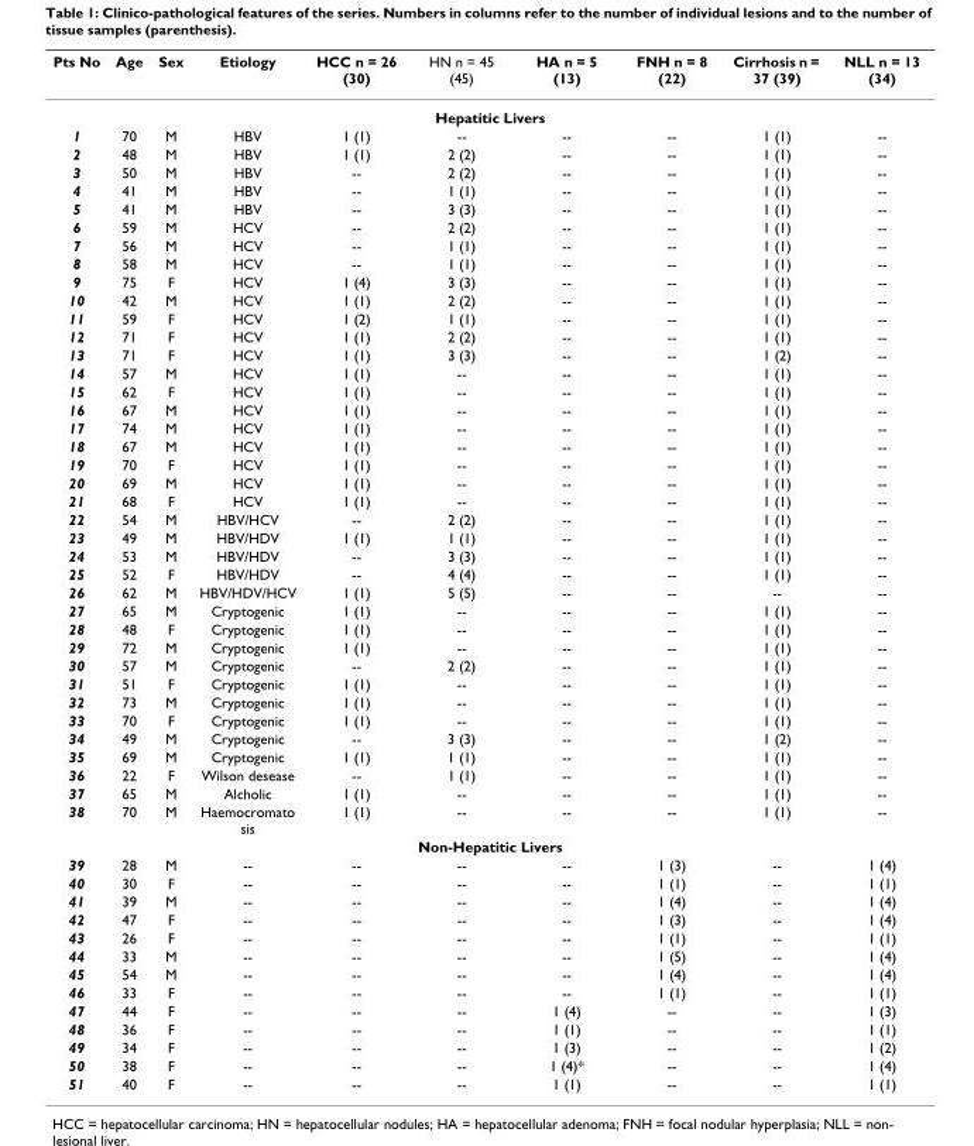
<table><thead><tr><td>Pts No</td><td>Age</td><td>Sex</td><td>Etiology</td><td>HCC n = 26 (30)</td><td>HN n = 45 (45)</td><td>HA n = 5 (13)</td><td>FNH n = 8 (22)</td><td>Cirrhosis n = 37 (39)</td><td>NLL n = 13 (34)</td></tr></thead><tbody><tr><td colspan="10">Hepatitic Livers</td></tr><tr><td>1</td><td>70</td><td>M</td><td>HBV</td><td>1 (1)</td><td>--</td><td>--</td><td>--</td><td>1 (1)</td><td>--</td></tr><tr><td>2</td><td>48</td><td>M</td><td>HBV</td><td>1 (1)</td><td>2 (2)</td><td>--</td><td>--</td><td>1 (1)</td><td>--</td></tr><tr><td>3</td><td>50</td><td>M</td><td>HBV</td><td>--</td><td>2 (2)</td><td>--</td><td>--</td><td>1 (1)</td><td>--</td></tr><tr><td>4</td><td>41</td><td>M</td><td>HBV</td><td>--</td><td>1 (1)</td><td>--</td><td>--</td><td>1 (1)</td><td>--</td></tr><tr><td>5</td><td>41</td><td>M</td><td>HBV</td><td>--</td><td>3 (3)</td><td>--</td><td>--</td><td>1 (1)</td><td>--</td></tr><tr><td>6</td><td>59</td><td>M</td><td>HCV</td><td>--</td><td>2 (2)</td><td>--</td><td>--</td><td>1 (1)</td><td>--</td></tr><tr><td>7</td><td>56</td><td>M</td><td>HCV</td><td>--</td><td>1 (1)</td><td>--</td><td>--</td><td>1 (1)</td><td>--</td></tr><tr><td>8</td><td>58</td><td>M</td><td>HCV</td><td>--</td><td>1 (1)</td><td>--</td><td>--</td><td>1 (1)</td><td>--</td></tr><tr><td>9</td><td>75</td><td>F</td><td>HCV</td><td>1 (4)</td><td>3 (3)</td><td>--</td><td>--</td><td>1 (1)</td><td>--</td></tr><tr><td>10</td><td>42</td><td>M</td><td>HCV</td><td>1 (1)</td><td>2 (2)</td><td>--</td><td>--</td><td>1 (1)</td><td>--</td></tr><tr><td>11</td><td>59</td><td>F</td><td>HCV</td><td>1 (2)</td><td>1 (1)</td><td>--</td><td>--</td><td>1 (1)</td><td>--</td></tr><tr><td>12</td><td>71</td><td>F</td><td>HCV</td><td>1 (1)</td><td>2 (2)</td><td>--</td><td>--</td><td>1 (1)</td><td>--</td></tr><tr><td>13</td><td>71</td><td>F</td><td>HCV</td><td>1 (1)</td><td>3 (3)</td><td>--</td><td>--</td><td>1 (2)</td><td>--</td></tr><tr><td>14</td><td>57</td><td>M</td><td>HCV</td><td>1 (1)</td><td>--</td><td>--</td><td>--</td><td>1 (1)</td><td>--</td></tr><tr><td>15</td><td>62</td><td>F</td><td>HCV</td><td>1 (1)</td><td>--</td><td>--</td><td>--</td><td>1 (1)</td><td>--</td></tr><tr><td>16</td><td>67</td><td>M</td><td>HCV</td><td>1 (1)</td><td>--</td><td>--</td><td>--</td><td>1 (1)</td><td>--</td></tr><tr><td>17</td><td>74</td><td>M</td><td>HCV</td><td>1 (1)</td><td>--</td><td>--</td><td>--</td><td>1 (1)</td><td>--</td></tr><tr><td>18</td><td>67</td><td>M</td><td>HCV</td><td>1 (1)</td><td>--</td><td>--</td><td>--</td><td>1 (1)</td><td>--</td></tr><tr><td>19</td><td>70</td><td>F</td><td>HCV</td><td>1 (1)</td><td>--</td><td>--</td><td>--</td><td>1 (1)</td><td>--</td></tr><tr><td>20</td><td>69</td><td>M</td><td>HCV</td><td>1 (1)</td><td>--</td><td>--</td><td>--</td><td>1 (1)</td><td>--</td></tr><tr><td>21</td><td>68</td><td>F</td><td>HCV</td><td>1 (1)</td><td>--</td><td>--</td><td>--</td><td>1 (1)</td><td>--</td></tr><tr><td>22</td><td>54</td><td>M</td><td>HBV/HCV</td><td>--</td><td>2 (2)</td><td>--</td><td>--</td><td>1 (1)</td><td>--</td></tr><tr><td>23</td><td>49</td><td>M</td><td>HBV/HDV</td><td>1 (1)</td><td>1 (1)</td><td>--</td><td>--</td><td>1 (1)</td><td>--</td></tr><tr><td>24</td><td>53</td><td>M</td><td>HBV/HDV</td><td>--</td><td>3 (3)</td><td>--</td><td>--</td><td>1 (1)</td><td>--</td></tr><tr><td>25</td><td>52</td><td>F</td><td>HBV/HDV</td><td>--</td><td>4 (4)</td><td>--</td><td>--</td><td>1 (1)</td><td>--</td></tr><tr><td>26</td><td>62</td><td>M</td><td>HBV/HDV/HCV</td><td>1 (1)</td><td>5 (5)</td><td>--</td><td>--</td><td>--</td><td>--</td></tr><tr><td>27</td><td>65</td><td>M</td><td>Cryptogenic</td><td>1 (1)</td><td>--</td><td>--</td><td>--</td><td>1 (1)</td><td>--</td></tr><tr><td>28</td><td>48</td><td>F</td><td>Cryptogenic</td><td>1 (1)</td><td>--</td><td>--</td><td>--</td><td>1 (1)</td><td>--</td></tr><tr><td>29</td><td>72</td><td>M</td><td>Cryptogenic</td><td>1 (1)</td><td>--</td><td>--</td><td>--</td><td>1 (1)</td><td>--</td></tr><tr><td>30</td><td>57</td><td>M</td><td>Cryptogenic</td><td>--</td><td>2 (2)</td><td>--</td><td>--</td><td>1 (1)</td><td>--</td></tr><tr><td>31</td><td>51</td><td>F</td><td>Cryptogenic</td><td>1 (1)</td><td>--</td><td>--</td><td>--</td><td>1 (1)</td><td>--</td></tr><tr><td>32</td><td>73</td><td>M</td><td>Cryptogenic</td><td>1 (1)</td><td>--</td><td>--</td><td>--</td><td>1 (1)</td><td>--</td></tr><tr><td>33</td><td>70</td><td>F</td><td>Cryptogenic</td><td>1 (1)</td><td>--</td><td>--</td><td>--</td><td>1 (1)</td><td>--</td></tr><tr><td>34</td><td>49</td><td>M</td><td>Cryptogenic</td><td>--</td><td>3 (3)</td><td>--</td><td>--</td><td>1 (2)</td><td>--</td></tr><tr><td>35</td><td>69</td><td>M</td><td>Cryptogenic</td><td>1 (1)</td><td>1 (1)</td><td>--</td><td>--</td><td>1 (1)</td><td>--</td></tr><tr><td>36</td><td>22</td><td>F</td><td>Wilson desease</td><td>--</td><td>1 (1)</td><td>--</td><td>--</td><td>1 (1)</td><td>--</td></tr><tr><td>37</td><td>65</td><td>M</td><td>Alcholic</td><td>1 (1)</td><td>--</td><td>--</td><td>--</td><td>1 (1)</td><td>--</td></tr><tr><td>38</td><td>70</td><td>M</td><td>Haemocromato sis</td><td>1 (1)</td><td>--</td><td>--</td><td>--</td><td>1 (1)</td><td>--</td></tr><tr><td colspan="10">Non-Hepatitic Livers</td></tr><tr><td>39</td><td>28</td><td>M</td><td>--</td><td>--</td><td>--</td><td>--</td><td>1 (3)</td><td>--</td><td>1 (4)</td></tr><tr><td>40</td><td>30</td><td>F</td><td>--</td><td>--</td><td>--</td><td>--</td><td>1 (1)</td><td>--</td><td>1 (1)</td></tr><tr><td>41</td><td>39</td><td>M</td><td>--</td><td>--</td><td>--</td><td>--</td><td>1 (4)</td><td>--</td><td>1 (4)</td></tr><tr><td>42</td><td>47</td><td>F</td><td>--</td><td>--</td><td>--</td><td>--</td><td>1 (3)</td><td>--</td><td>1 (4)</td></tr><tr><td>43</td><td>26</td><td>F</td><td>--</td><td>--</td><td>--</td><td>--</td><td>1 (1)</td><td>--</td><td>1 (1)</td></tr><tr><td>44</td><td>33</td><td>M</td><td>--</td><td>--</td><td>--</td><td>--</td><td>1 (5)</td><td>--</td><td>1 (4)</td></tr><tr><td>45</td><td>54</td><td>M</td><td>--</td><td>--</td><td>--</td><td>--</td><td>1 (4)</td><td>--</td><td>1 (4)</td></tr><tr><td>46</td><td>33</td><td>F</td><td>--</td><td>--</td><td>--</td><td>--</td><td>1 (1)</td><td>--</td><td>1 (1)</td></tr><tr><td>47</td><td>44</td><td>F</td><td>--</td><td>--</td><td>--</td><td>1 (4)</td><td>--</td><td>--</td><td>1 (3)</td></tr><tr><td>48</td><td>36</td><td>F</td><td>--</td><td>--</td><td>--</td><td>1 (1)</td><td>--</td><td>--</td><td>1 (1)</td></tr><tr><td>49</td><td>34</td><td>F</td><td>--</td><td>--</td><td>--</td><td>1 (3)</td><td>--</td><td>--</td><td>1 (2)</td></tr><tr><td>50</td><td>38</td><td>F</td><td>--</td><td>--</td><td>--</td><td>1 (4)*</td><td>--</td><td>--</td><td>1 (4)</td></tr><tr><td>51</td><td>40</td><td>F</td><td>--</td><td>--</td><td>--</td><td>1 (1)</td><td>--</td><td>--</td><td>1 (1)</td></tr></tbody></table>